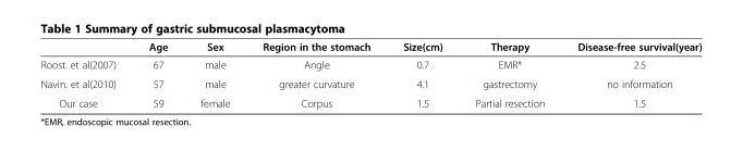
<table><thead><tr><td></td><td>Age</td><td>Sex</td><td>Region in the stomach</td><td>Size(cm)</td><td>Therapy</td><td>Disease-free survival(year)</td></tr></thead><tbody><tr><td>Roost. et al(2007)</td><td>67</td><td>male</td><td>Angle</td><td>0.7</td><td>EMR*</td><td>2.5</td></tr><tr><td>Navin. et al(2010)</td><td>57</td><td>male</td><td>greater curvature</td><td>4.1</td><td>gastrectomy</td><td>no information</td></tr><tr><td>Our case</td><td>59</td><td>female</td><td>Corpus</td><td>1.5</td><td>Partial resection</td><td>1.5</td></tr></tbody></table>